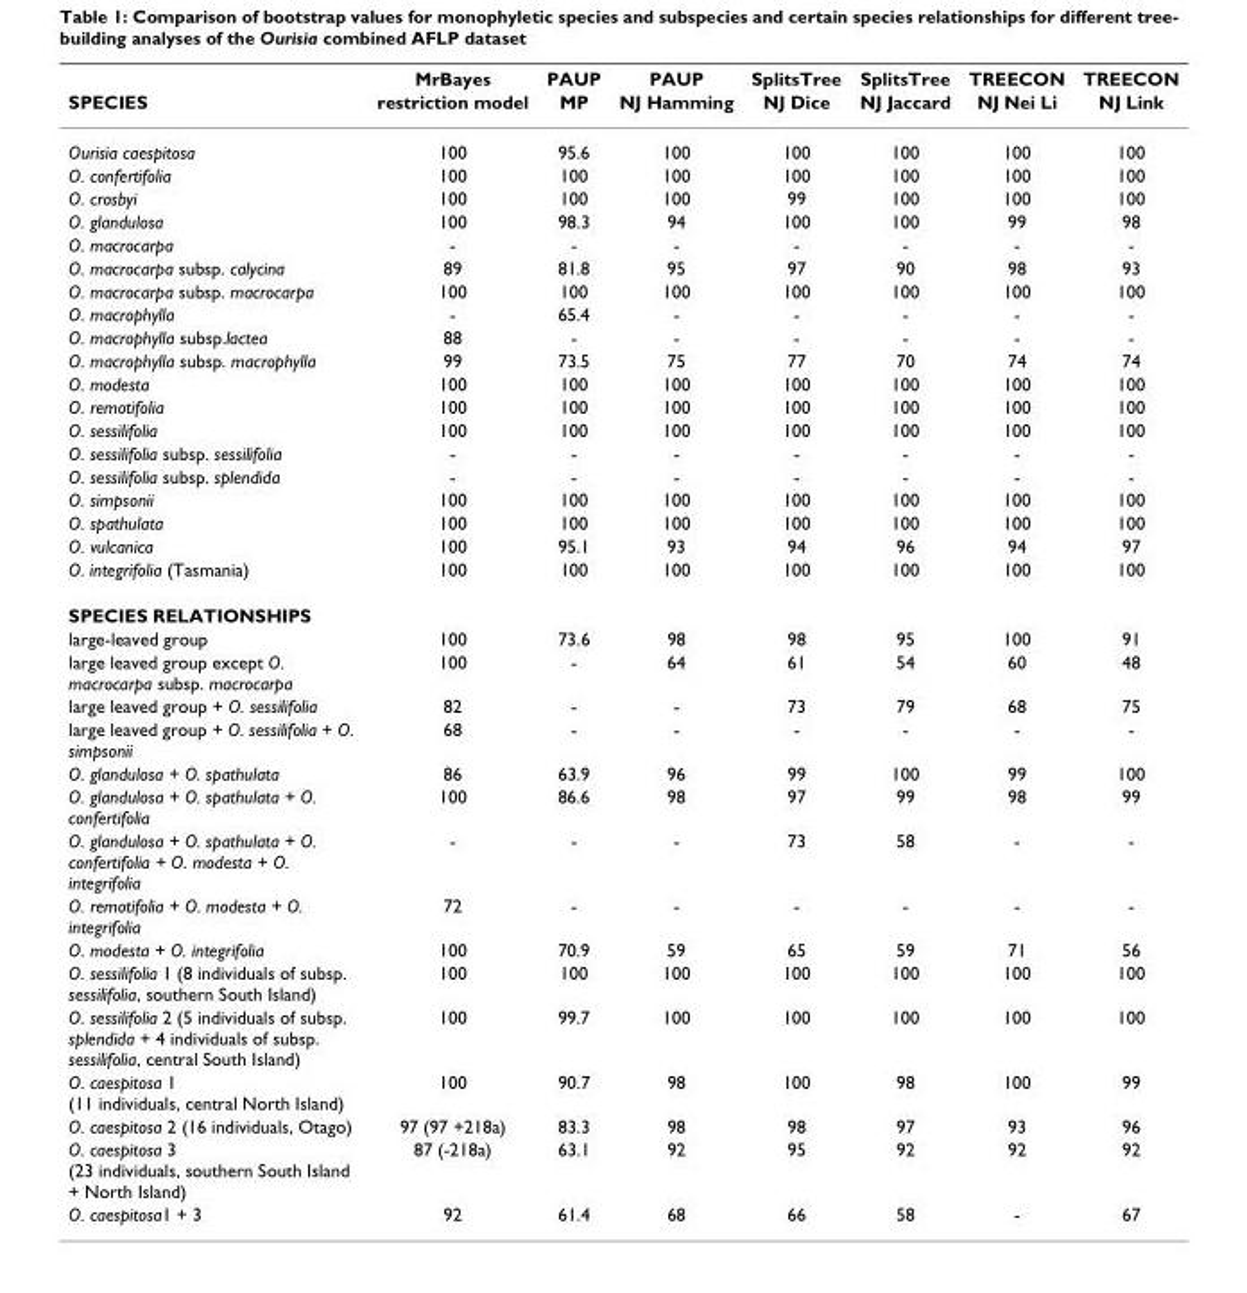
<table><thead><tr><td rowspan="2">SPECIES</td><td rowspan="2">MrBayes restriction model</td><td rowspan="2">PAUP MP</td><td rowspan="2">PAUP NJ Hamming</td><td rowspan="2">SplitsTree NJ Dice</td><td rowspan="2">SplitsTree NJ Jaccard</td><td rowspan="2">TREECON NJ Nei Li</td><td rowspan="2">TREECON NJ Link</td></tr><tr></tr></thead><tbody><tr><td>Ourisia caespitosa</td><td>100</td><td>95.6</td><td>100</td><td>100</td><td>100</td><td>100</td><td>100</td></tr><tr><td>O. confertifolia</td><td>100</td><td>100</td><td>100</td><td>100</td><td>100</td><td>100</td><td>100</td></tr><tr><td>O. crosbyi</td><td>100</td><td>100</td><td>100</td><td>99</td><td>100</td><td>100</td><td>100</td></tr><tr><td>O. glandulosa</td><td>100</td><td>98.3</td><td>94</td><td>100</td><td>100</td><td>99</td><td>98</td></tr><tr><td>O. macrocarpa</td><td>-</td><td>-</td><td>-</td><td>-</td><td>-</td><td>-</td><td>-</td></tr><tr><td>O. macrocarpa subsp. calycina</td><td>89</td><td>81.8</td><td>95</td><td>97</td><td>90</td><td>98</td><td>93</td></tr><tr><td>O. macrocarpa subsp. macrocarpa</td><td>100</td><td>100</td><td>100</td><td>100</td><td>100</td><td>100</td><td>100</td></tr><tr><td>O. macrophylla</td><td>-</td><td>65.4</td><td>-</td><td>-</td><td>-</td><td>-</td><td>-</td></tr><tr><td>O. macrophylla subsp.lactea</td><td>88</td><td>-</td><td>-</td><td>-</td><td>-</td><td>-</td><td>-</td></tr><tr><td>O. macrophylla subsp. macrophylla</td><td>99</td><td>73.5</td><td>75</td><td>77</td><td>70</td><td>74</td><td>74</td></tr><tr><td>O. modesta</td><td>100</td><td>100</td><td>100</td><td>100</td><td>100</td><td>100</td><td>100</td></tr><tr><td>O. remotifolia</td><td>100</td><td>100</td><td>100</td><td>100</td><td>100</td><td>100</td><td>100</td></tr><tr><td>O. sessilifolia</td><td>100</td><td>100</td><td>100</td><td>100</td><td>100</td><td>100</td><td>100</td></tr><tr><td>O. sessilifolia subsp. sessilifolia</td><td>-</td><td>-</td><td>-</td><td>-</td><td>-</td><td>-</td><td>-</td></tr><tr><td>O. sessilifolia subsp. splendida</td><td>-</td><td>-</td><td>-</td><td>-</td><td>-</td><td>-</td><td>-</td></tr><tr><td>O. simpsonii</td><td>100</td><td>100</td><td>100</td><td>100</td><td>100</td><td>100</td><td>100</td></tr><tr><td>O. spathulata</td><td>100</td><td>100</td><td>100</td><td>100</td><td>100</td><td>100</td><td>100</td></tr><tr><td>O. vulcanica</td><td>100</td><td>95.1</td><td>93</td><td>94</td><td>96</td><td>94</td><td>97</td></tr><tr><td>O. integrifolia (Tasmania)</td><td>100</td><td>100</td><td>100</td><td>100</td><td>100</td><td>100</td><td>100</td></tr><tr><td colspan="8">SPECIES RELATIONSHIPS</td></tr><tr><td>large-leaved group</td><td>100</td><td>73.6</td><td>98</td><td>98</td><td>95</td><td>100</td><td>91</td></tr><tr><td>large leaved group except O. macrocarpa subsp. macrocarpa</td><td>100</td><td>-</td><td>64</td><td>61</td><td>54</td><td>60</td><td>48</td></tr><tr><td>large leaved group + O. sessilifolia</td><td>82</td><td>-</td><td>-</td><td>73</td><td>79</td><td>68</td><td>75</td></tr><tr><td>large leaved group + O. sessilifolia + O. simpsonii</td><td>68</td><td>-</td><td>-</td><td>-</td><td>-</td><td>-</td><td>-</td></tr><tr><td>O. glandulosa + O. spathulata</td><td>86</td><td>63.9</td><td>96</td><td>99</td><td>100</td><td>99</td><td>100</td></tr><tr><td>O. glandulosa + O. spathulata + O. confertifolia</td><td>100</td><td>86.6</td><td>98</td><td>97</td><td>99</td><td>98</td><td>99</td></tr><tr><td>O. glandulosa + O. spathulata + O. confertifolia + O. modesta + O. integrifolia</td><td>-</td><td>-</td><td>-</td><td>73</td><td>58</td><td>-</td><td>-</td></tr><tr><td>O. remotifolia + O. modesta + O. integrifolia</td><td>72</td><td>-</td><td>-</td><td>-</td><td>-</td><td>-</td><td>-</td></tr><tr><td>O. modesta + O. integrifolia</td><td>100</td><td>70.9</td><td>59</td><td>65</td><td>59</td><td>71</td><td>56</td></tr><tr><td>O. sessilifolia 1 (8 individuals of subsp. sessilifolia, southern South Island)</td><td>100</td><td>100</td><td>100</td><td>100</td><td>100</td><td>100</td><td>100</td></tr><tr><td>O. sessilifolia 2 (5 individuals of subsp. splendida + 4 individuals of subsp. sessilifolia, central South Island)</td><td>100</td><td>99.7</td><td>100</td><td>100</td><td>100</td><td>100</td><td>100</td></tr><tr><td>O. caespitosa 1 (11 individuals, central North Island)</td><td>100</td><td>90.7</td><td>98</td><td>100</td><td>98</td><td>100</td><td>99</td></tr><tr><td>O. caespitosa 2 (16 individuals, Otago)</td><td>97 (97 +218a)</td><td>83.3</td><td>98</td><td>98</td><td>97</td><td>93</td><td>96</td></tr><tr><td>O. caespitosa 3 (23 individuals, southern South Island + North Island)</td><td>87 (-218a)</td><td>63.1</td><td>92</td><td>95</td><td>92</td><td>92</td><td>92</td></tr><tr><td>O. caespitosa1 + 3</td><td>92</td><td>61.4</td><td>68</td><td>66</td><td>58</td><td>-</td><td>67</td></tr></tbody></table>